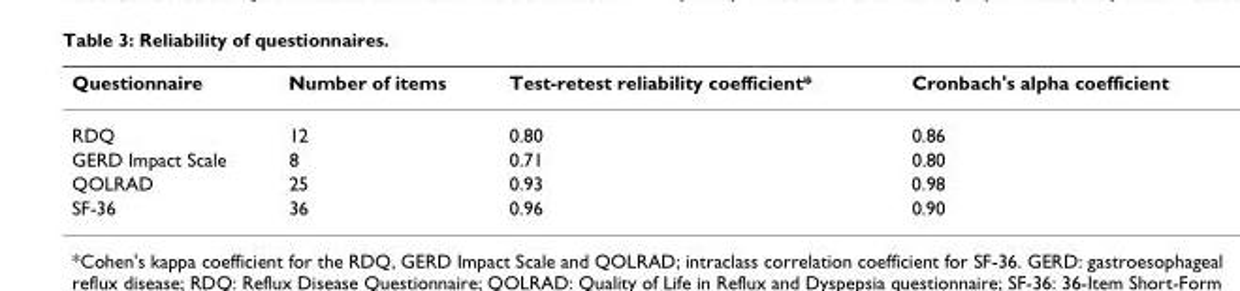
<table><thead><tr><td>Questionnaire</td><td>Number of items</td><td>Test-retest reliability coefficient*</td><td>Cronbach&#x27;s alpha coefficient</td></tr></thead><tbody><tr><td>RDQ</td><td>12</td><td>0.80</td><td>0.86</td></tr><tr><td>GERD Impact Scale</td><td>8</td><td>0.71</td><td>0.80</td></tr><tr><td>QOLRAD</td><td>25</td><td>0.93</td><td>0.98</td></tr><tr><td>SF-36</td><td>36</td><td>0.96</td><td>0.90</td></tr></tbody></table>